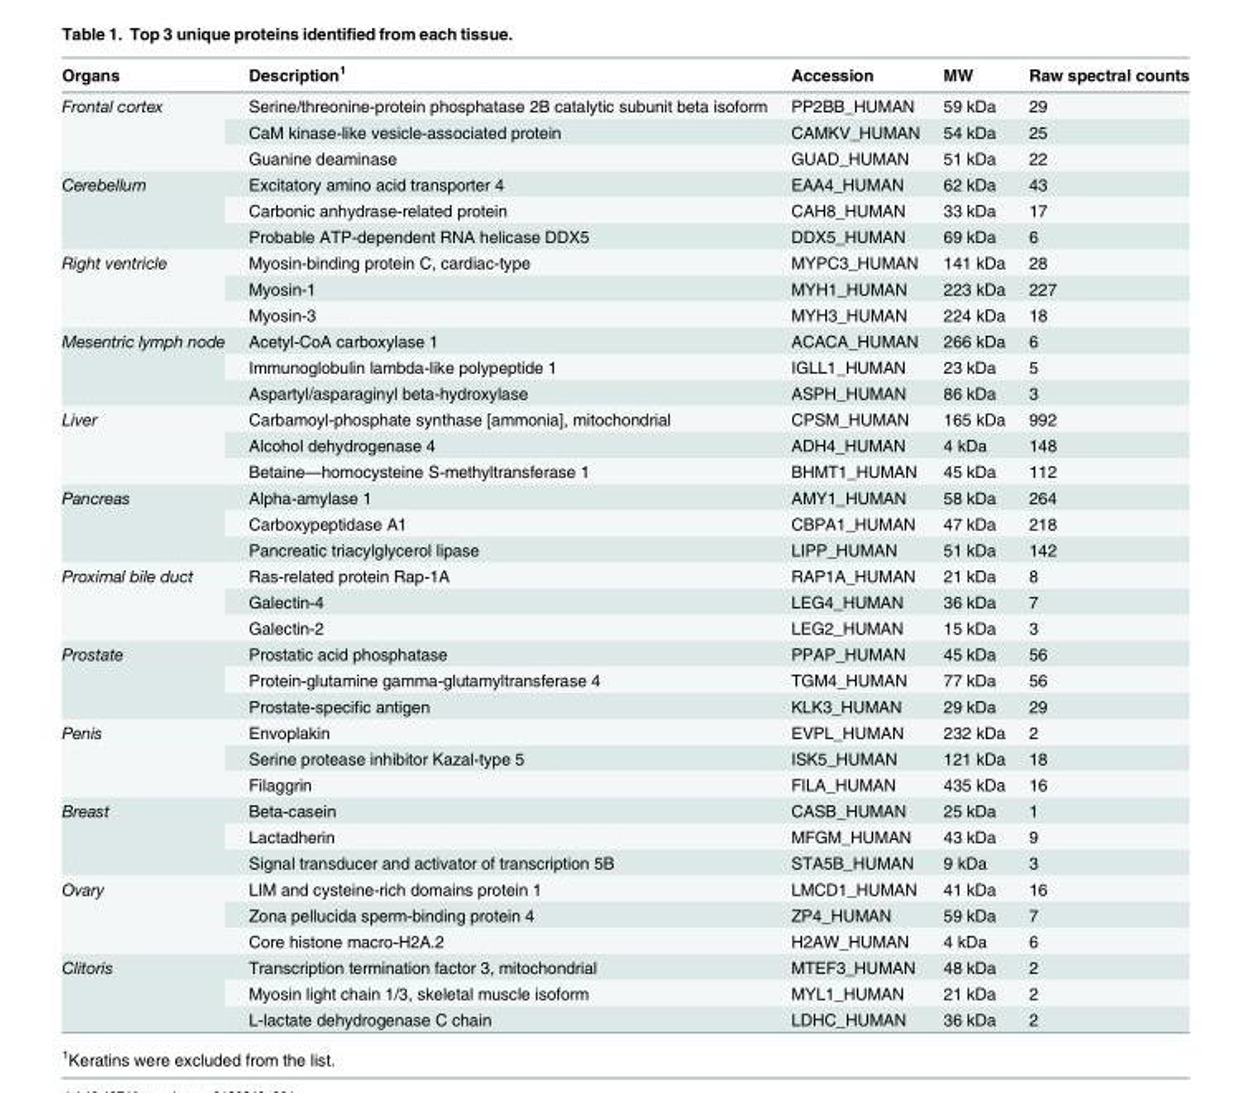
<table><thead><tr><td>Organs</td><td>Description<sup>1</sup></td><td>Accession</td><td>MW</td><td>Raw spectral counts</td></tr></thead><tbody><tr><td rowspan="3">Frontal cortex</td><td>Serine/threonine-protein phosphatase 2B catalytic subunit beta isoform</td><td>PP2BB_HUMAN</td><td>59 kDa</td><td>29</td></tr><tr><td>CaM kinase-like vesicle-associated protein</td><td>CAMKV_HUMAN</td><td>54 kDa</td><td>25</td></tr><tr><td>Guanine deaminase</td><td>GUAD_HUMAN</td><td>51 kDa</td><td>22</td></tr><tr><td rowspan="3">Cerebellum</td><td>Excitatory amino acid transporter 4</td><td>EAA4_HUMAN</td><td>62 kDa</td><td>43</td></tr><tr><td>Carbonic anhydrase-related protein</td><td>CAH8_HUMAN</td><td>33 kDa</td><td>17</td></tr><tr><td>Probable ATP-dependent RNA helicase DDX5</td><td>DDX5_HUMAN</td><td>69 kDa</td><td>6</td></tr><tr><td rowspan="3">Right ventricle</td><td>Myosin-binding protein C, cardiac-type</td><td>MYPC3_HUMAN</td><td>141 kDa</td><td>28</td></tr><tr><td>Myosin-1</td><td>MYH1_HUMAN</td><td>223 kDa</td><td>227</td></tr><tr><td>Myosin-3</td><td>MYH3_HUMAN</td><td>224 kDa</td><td>18</td></tr><tr><td rowspan="3">Mesentric lymph node</td><td>Acetyl-CoA carboxylase 1</td><td>ACACA_HUMAN</td><td>266 kDa</td><td>6</td></tr><tr><td>Immunoglobulin lambda-like polypeptide 1</td><td>IGLL1_HUMAN</td><td>23 kDa</td><td>5</td></tr><tr><td>Aspartyl/asparaginyl beta-hydroxylase</td><td>ASPH_HUMAN</td><td>86 kDa</td><td>3</td></tr><tr><td rowspan="3">Liver</td><td>Carbamoyl-phosphate synthase [ammonia], mitochondrial</td><td>CPSM_HUMAN</td><td>165 kDa</td><td>992</td></tr><tr><td>Alcohol dehydrogenase 4</td><td>ADH4_HUMAN</td><td>4 kDa</td><td>148</td></tr><tr><td>Betaine—homocysteine S-methyltransferase 1</td><td>BHMT1_HUMAN</td><td>45 kDa</td><td>112</td></tr><tr><td rowspan="3">Pancreas</td><td>Alpha-amylase 1</td><td>AMY1_HUMAN</td><td>58 kDa</td><td>264</td></tr><tr><td>Carboxypeptidase A1</td><td>CBPA1_HUMAN</td><td>47 kDa</td><td>218</td></tr><tr><td>Pancreatic triacylglycerol lipase</td><td>LIPP_HUMAN</td><td>51 kDa</td><td>142</td></tr><tr><td rowspan="3">Proximal bile duct</td><td>Ras-related protein Rap-1A</td><td>RAP1A_HUMAN</td><td>21 kDa</td><td>8</td></tr><tr><td>Galectin-4</td><td>LEG4_HUMAN</td><td>36 kDa</td><td>7</td></tr><tr><td>Galectin-2</td><td>LEG2_HUMAN</td><td>15 kDa</td><td>3</td></tr><tr><td rowspan="3">Prostate</td><td>Prostatic acid phosphatase</td><td>PPAP_HUMAN</td><td>45 kDa</td><td>56</td></tr><tr><td>Protein-glutamine gamma-glutamyltransferase 4</td><td>TGM4_HUMAN</td><td>77 kDa</td><td>56</td></tr><tr><td>Prostate-specific antigen</td><td>KLK3_HUMAN</td><td>29 kDa</td><td>29</td></tr><tr><td rowspan="3">Penis</td><td>Envoplakin</td><td>EVPL_HUMAN</td><td>232 kDa</td><td>2</td></tr><tr><td>Serine protease inhibitor Kazal-type 5</td><td>ISK5_HUMAN</td><td>121 kDa</td><td>18</td></tr><tr><td>Filaggrin</td><td>FILA_HUMAN</td><td>435 kDa</td><td>16</td></tr><tr><td rowspan="3">Breast</td><td>Beta-casein</td><td>CASB_HUMAN</td><td>25 kDa</td><td>1</td></tr><tr><td>Lactadherin</td><td>MFGM_HUMAN</td><td>43 kDa</td><td>9</td></tr><tr><td>Signal transducer and activator of transcription 5B</td><td>STA5B_HUMAN</td><td>9 kDa</td><td>3</td></tr><tr><td rowspan="3">Ovary</td><td>LIM and cysteine-rich domains protein 1</td><td>LMCD1_HUMAN</td><td>41 kDa</td><td>16</td></tr><tr><td>Zona pellucida sperm-binding protein 4</td><td>ZP4_HUMAN</td><td>59 kDa</td><td>7</td></tr><tr><td>Core histone macro-H2A.2</td><td>H2AW_HUMAN</td><td>4 kDa</td><td>6</td></tr><tr><td rowspan="3">Clitoris</td><td>Transcription termination factor 3, mitochondrial</td><td>MTEF3_HUMAN</td><td>48 kDa</td><td>2</td></tr><tr><td>Myosin light chain 1/3, skeletal muscle isoform</td><td>MYL1_HUMAN</td><td>21 kDa</td><td>2</td></tr><tr><td>L-lactate dehydrogenase C chain</td><td>LDHC_HUMAN</td><td>36 kDa</td><td>2</td></tr></tbody></table>